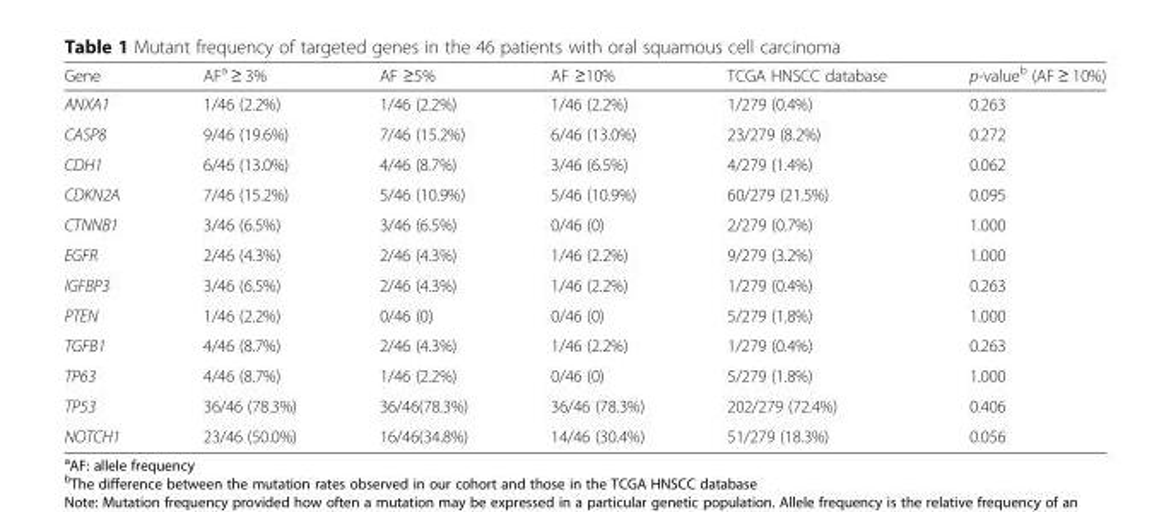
<table><thead><tr><td>Gene</td><td>AF<sup>a</sup> ≥ 3%</td><td>AF ≥5%</td><td>AF ≥10%</td><td>TCGA HNSCC database</td><td>p-value<sup>b</sup> (AF ≥ 10%)</td></tr></thead><tbody><tr><td>ANXA1</td><td>1/46 (2.2%)</td><td>1/46 (2.2%)</td><td>1/46 (2.2%)</td><td>1/279 (0.4%)</td><td>0.263</td></tr><tr><td>CASP8</td><td>9/46 (19.6%)</td><td>7/46 (15.2%)</td><td>6/46 (13.0%)</td><td>23/279 (8.2%)</td><td>0.272</td></tr><tr><td>CDH1</td><td>6/46 (13.0%)</td><td>4/46 (8.7%)</td><td>3/46 (6.5%)</td><td>4/279 (1.4%)</td><td>0.062</td></tr><tr><td>CDKN2A</td><td>7/46 (15.2%)</td><td>5/46 (10.9%)</td><td>5/46 (10.9%)</td><td>60/279 (21.5%)</td><td>0.095</td></tr><tr><td>CTNNB1</td><td>3/46 (6.5%)</td><td>3/46 (6.5%)</td><td>0/46 (0)</td><td>2/279 (0.7%)</td><td>1.000</td></tr><tr><td>EGFR</td><td>2/46 (4.3%)</td><td>2/46 (4.3%)</td><td>1/46 (2.2%)</td><td>9/279 (3.2%)</td><td>1.000</td></tr><tr><td>IGFBP3</td><td>3/46 (6.5%)</td><td>2/46 (4.3%)</td><td>1/46 (2.2%)</td><td>1/279 (0.4%)</td><td>0.263</td></tr><tr><td>PTEN</td><td>1/46 (2.2%)</td><td>0/46 (0)</td><td>0/46 (0)</td><td>5/279 (1.8%)</td><td>1.000</td></tr><tr><td>TGFB1</td><td>4/46 (8.7%)</td><td>2/46 (4.3%)</td><td>1/46 (2.2%)</td><td>1/279 (0.4%)</td><td>0.263</td></tr><tr><td>TP63</td><td>4/46 (8.7%)</td><td>1/46 (2.2%)</td><td>0/46 (0)</td><td>5/279 (1.8%)</td><td>1.000</td></tr><tr><td>TP53</td><td>36/46 (78.3%)</td><td>36/46(78.3%)</td><td>36/46 (78.3%)</td><td>202/279 (72.4%)</td><td>0.406</td></tr><tr><td>NOTCH1</td><td>23/46 (50.0%)</td><td>16/46(34.8%)</td><td>14/46 (30.4%)</td><td>51/279 (18.3%)</td><td>0.056</td></tr></tbody></table>